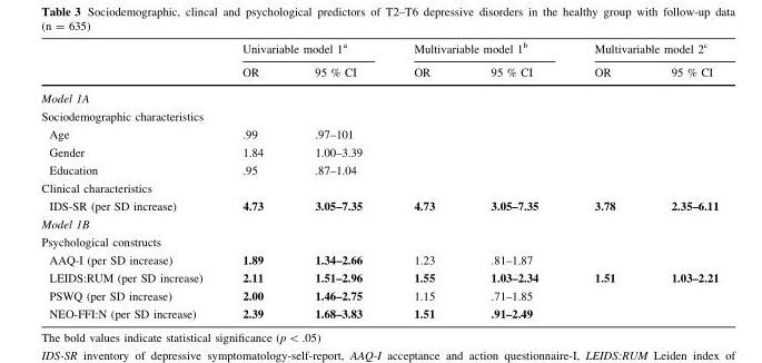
<table><thead><tr><td rowspan="2"></td><td colspan="2">Univariable model 1<sup>a</sup></td><td colspan="2">Multivariable model 1<sup>b</sup></td><td colspan="2">Multivariable model 2<sup>c</sup></td></tr><tr><td>OR</td><td>95 % CI</td><td>OR</td><td>95 % CI</td><td>OR</td><td>95 % CI</td></tr></thead><tbody><tr><td colspan="7">Model 1A</td></tr><tr><td colspan="7">Sociodemographic characteristics</td></tr><tr><td>Age</td><td>.99</td><td>.97–101</td><td></td><td></td><td></td><td></td></tr><tr><td>Gender</td><td>1.84</td><td>1.00–3.39</td><td></td><td></td><td></td><td></td></tr><tr><td>Education</td><td>.95</td><td>.87–1.04</td><td></td><td></td><td></td><td></td></tr><tr><td colspan="7">Clinical characteristics</td></tr><tr><td>IDS-SR (per SD increase)</td><td>4.73</td><td>3.05–7.35</td><td>4.73</td><td>3.05–7.35</td><td>3.78</td><td>2.35–6.11</td></tr><tr><td colspan="7">Model 1B</td></tr><tr><td colspan="7">Psychological constructs</td></tr><tr><td>AAQ-I (per SD increase)</td><td>1.89</td><td>1.34–2.66</td><td>1.23</td><td>.81–1.87</td><td></td><td></td></tr><tr><td>LEIDS:RUM (per SD increase)</td><td>2.11</td><td>1.51–2.96</td><td>1.55</td><td>1.03–2.34</td><td>1.51</td><td>1.03–2.21</td></tr><tr><td>PSWQ (per SD increase)</td><td>2.00</td><td>1.46–2.75</td><td>1.15</td><td>.71–1.85</td><td></td><td></td></tr><tr><td>NEO-FFI:N (per SD increase)</td><td>2.39</td><td>1.68–3.83</td><td>1.51</td><td>.91–2.49</td><td></td><td></td></tr></tbody></table>